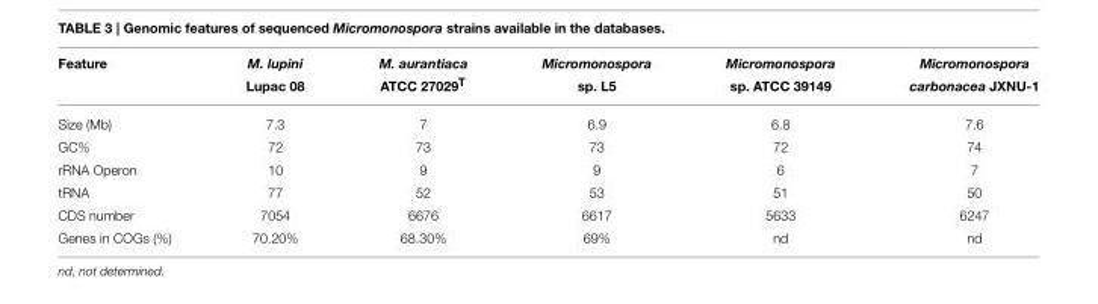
<table><thead><tr><td rowspan="2">Feature</td><td rowspan="2">M. lupini Lupac 08</td><td rowspan="2">M. aurantiaca ATCC 27029<sup>T</sup></td><td rowspan="2">Micromonospora sp. L5</td><td rowspan="2">Micromonospora sp. ATCC 39149</td><td rowspan="2">Micromonospora carbonacea JXNU-1</td></tr><tr></tr></thead><tbody><tr><td>Size (Mb)</td><td>7.3</td><td>7</td><td>6.9</td><td>6.8</td><td>7.6</td></tr><tr><td>GC%</td><td>72</td><td>73</td><td>73</td><td>72</td><td>74</td></tr><tr><td>rRNA Operon</td><td>10</td><td>9</td><td>9</td><td>6</td><td>7</td></tr><tr><td>tRNA</td><td>77</td><td>52</td><td>53</td><td>51</td><td>50</td></tr><tr><td>CDS number</td><td>7054</td><td>6676</td><td>6617</td><td>5633</td><td>6247</td></tr><tr><td>Genes in COGs (%)</td><td>70.20%</td><td>68.30%</td><td>69%</td><td>nd</td><td>nd</td></tr></tbody></table>